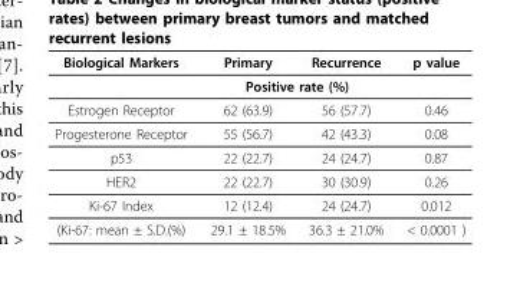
<table><thead><tr><td>Biological Markers</td><td>Primary</td><td>Recurrence</td><td>p value</td></tr></thead><tbody><tr><td></td><td colspan="2">Positive rate (%)</td><td></td></tr><tr><td>Estrogen Receptor</td><td>62 (63.9)</td><td>56 (57.7)</td><td>0.46</td></tr><tr><td>Progesterone Receptor</td><td>55 (56.7)</td><td>42 (43.3)</td><td>0.08</td></tr><tr><td>p53</td><td>22 (22.7)</td><td>24 (24.7)</td><td>0.87</td></tr><tr><td>HER2</td><td>22 (22.7)</td><td>30 (30.9)</td><td>0.26</td></tr><tr><td>Ki-67 Index</td><td>12 (12.4)</td><td>24 (24.7)</td><td>0.012</td></tr><tr><td>(Ki-67: mean ± S.D.(%)</td><td>29.1 ± 18.5%</td><td>36.3 ± 21.0%</td><td>&lt; 0.0001 )</td></tr></tbody></table>